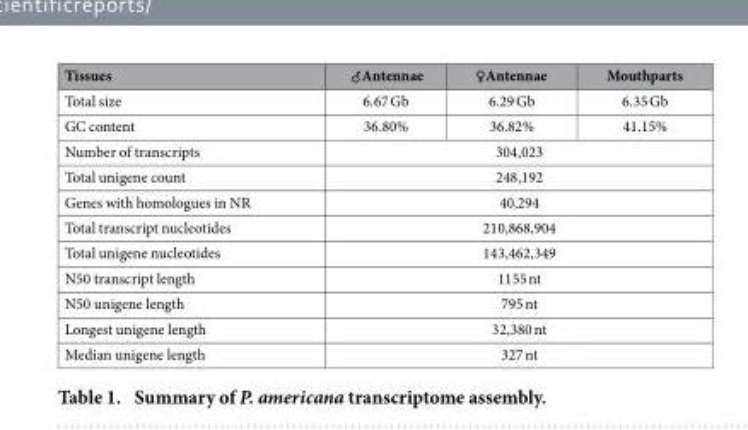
<table><thead><tr><td>Tissues</td><td>♂Antennae</td><td>♀Antennae</td><td>Mouthparts</td></tr></thead><tbody><tr><td>Total size</td><td>6.67 Gb</td><td>6.29 Gb</td><td>6.35 Gb</td></tr><tr><td>GC content</td><td>36.80%</td><td>36.82%</td><td>41.15%</td></tr><tr><td>Number of transcripts</td><td colspan="3">304,023</td></tr><tr><td>Total unigene count</td><td colspan="3">248,192</td></tr><tr><td>Genes with homologues in NR</td><td colspan="3">40,294</td></tr><tr><td>Total transcript nucleotides</td><td colspan="3">210,868,904</td></tr><tr><td>Total unigene nucleotides</td><td colspan="3">143,462,349</td></tr><tr><td>N50 transcript length</td><td colspan="3">1155 nt</td></tr><tr><td>N50 unigene length</td><td colspan="3">795 nt</td></tr><tr><td>Longest unigene length</td><td colspan="3">32,380 nt</td></tr><tr><td>Median unigene length</td><td colspan="3">327 nt</td></tr></tbody></table>